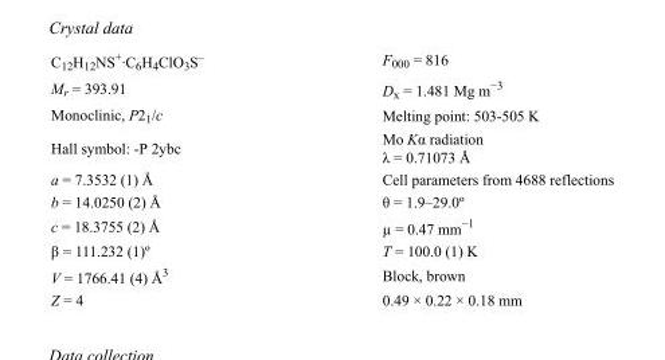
<table><tbody><tr><td>C<sub>12</sub>H<sub>12</sub>NS<sup>+</sup>·C<sub>6</sub>H<sub>4</sub>ClO<sub>3</sub>S<sup>–</sup></td><td>F<sub>000</sub> = 816</td></tr><tr><td>M<sub>r</sub> = 393.91</td><td>D<sub>x</sub> = 1.481 Mg m<sup>−3</sup></td></tr><tr><td>Monoclinic, P2<sub>1</sub>/c</td><td>Melting point= 503-505 K</td></tr><tr><td>Hall symbol: -P 2ybc</td><td>Mo Kα radiation λ = 0.71073 Å</td></tr><tr><td>a = 7.3532 (1) Å</td><td>Cell parameters from 4688 reflections</td></tr><tr><td>b = 14.0250 (2) Å</td><td>θ = 1.9–29.0º</td></tr><tr><td>c = 18.3755 (2) Å</td><td>µ = 0.47 mm<sup>−1</sup></td></tr><tr><td>β = 111.232 (1)º</td><td>T = 100.0 (1) K</td></tr><tr><td>V = 1766.41 (4) Å<sup>3</sup></td><td>Block, brown</td></tr><tr><td>Z = 4</td><td>0.49 × 0.22 × 0.18 mm</td></tr></tbody></table>